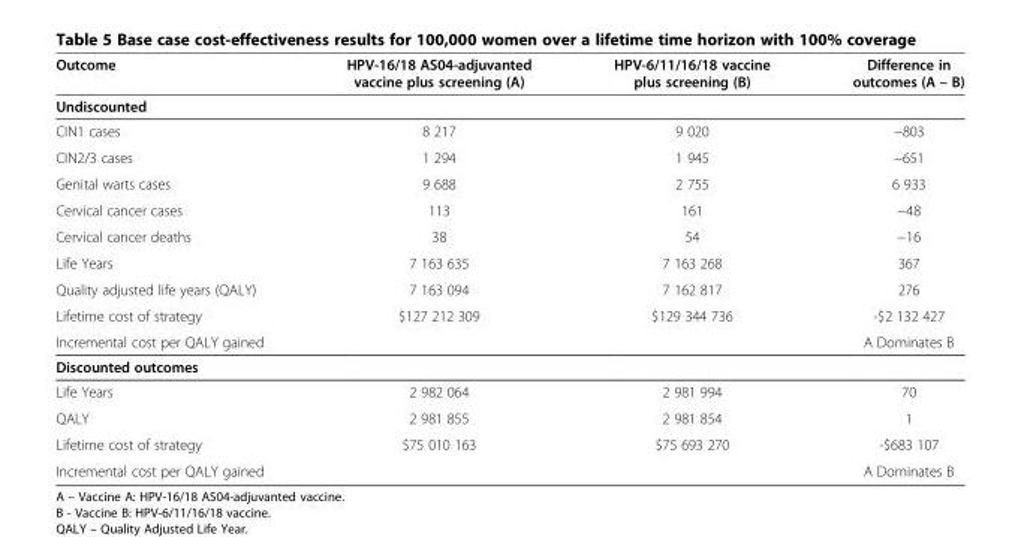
<table><thead><tr><td>Outcome</td><td>HPV-16/18 AS04-adjuvanted vaccine plus screening (A)</td><td>HPV-6/11/16/18 vaccine plus screening (B)</td><td>Difference in outcomes (A – B)</td></tr></thead><tbody><tr><td colspan="4">Undiscounted</td></tr><tr><td>CIN1 cases</td><td>8 217</td><td>9 020</td><td>−803</td></tr><tr><td>CIN2/3 cases</td><td>1 294</td><td>1 945</td><td>−651</td></tr><tr><td>Genital warts cases</td><td>9 688</td><td>2 755</td><td>6 933</td></tr><tr><td>Cervical cancer cases</td><td>113</td><td>161</td><td>−48</td></tr><tr><td>Cervical cancer deaths</td><td>38</td><td>54</td><td>−16</td></tr><tr><td>Life Years</td><td>7 163 635</td><td>7 163 268</td><td>367</td></tr><tr><td>Quality adjusted life years (QALY)</td><td>7 163 094</td><td>7 162 817</td><td>276</td></tr><tr><td>Lifetime cost of strategy</td><td>$127 212 309</td><td>$129 344 736</td><td>-$2 132 427</td></tr><tr><td>Incremental cost per QALY gained</td><td></td><td></td><td>A Dominates B</td></tr><tr><td colspan="4">Discounted outcomes</td></tr><tr><td>Life Years</td><td>2 982 064</td><td>2 981 994</td><td>70</td></tr><tr><td>QALY</td><td>2 981 855</td><td>2 981 854</td><td>1</td></tr><tr><td>Lifetime cost of strategy</td><td>$75 010 163</td><td>$75 693 270</td><td>-$683 107</td></tr><tr><td>Incremental cost per QALY gained</td><td></td><td></td><td>A Dominates B</td></tr></tbody></table>